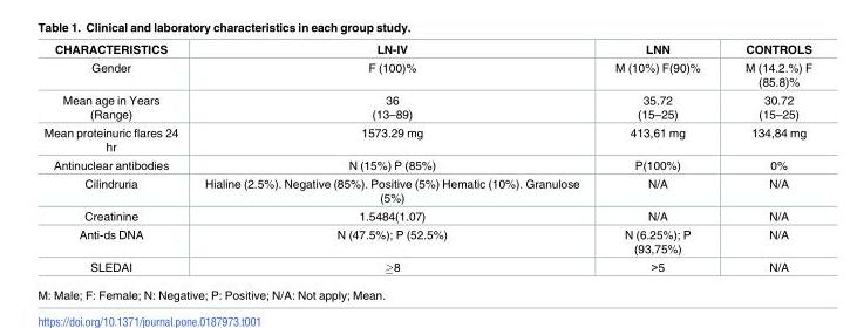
<table><thead><tr><td>CHARACTERISTICS</td><td>LN-IV</td><td>LNN</td><td>CONTROLS</td></tr></thead><tbody><tr><td>Gender</td><td>F (100)%</td><td>M (10%) F(90)%</td><td>M (14.2.%) F (85.8)%</td></tr><tr><td>Mean age in Years (Range)</td><td>36 (13–89)</td><td>35.72 (15–25)</td><td>30.72 (15–25)</td></tr><tr><td>Mean proteinuric flares 24 hr</td><td>1573.29 mg</td><td>413,61 mg</td><td>134,84 mg</td></tr><tr><td>Antinuclear antibodies</td><td>N (15%) P (85%)</td><td>P(100%)</td><td>0%</td></tr><tr><td>Cilindruria</td><td>Hialine (2.5%). Negative (85%). Positive (5%) Hematic (10%). Granulose (5%)</td><td>N/A</td><td>N/A</td></tr><tr><td>Creatinine</td><td>1.5484(1.07)</td><td>N/A</td><td>N/A</td></tr><tr><td>Anti-ds DNA</td><td>N (47.5%); P (52.5%)</td><td>N (6.25%); P (93,75%)</td><td>N/A</td></tr><tr><td>SLEDAI</td><td>≥8</td><td>&gt;5</td><td>N/A</td></tr></tbody></table>